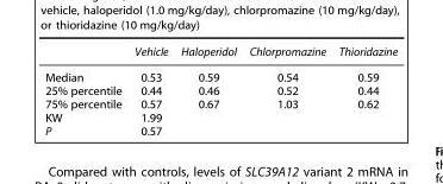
<table><thead><tr><td></td><td>Vehicle</td><td>Haloperidol</td><td>Chlorpromazine</td><td>Thioridazine</td></tr></thead><tbody><tr><td>Median</td><td>0.53</td><td>0.59</td><td>0.54</td><td>0.59</td></tr><tr><td>25% percentile</td><td>0.44</td><td>0.46</td><td>0.52</td><td>0.44</td></tr><tr><td>75% percentile</td><td>0.57</td><td>0.67</td><td>1.03</td><td>0.62</td></tr><tr><td>KW</td><td>1.99</td><td></td><td></td><td></td></tr><tr><td>P</td><td>0.57</td><td></td><td></td><td></td></tr></tbody></table>